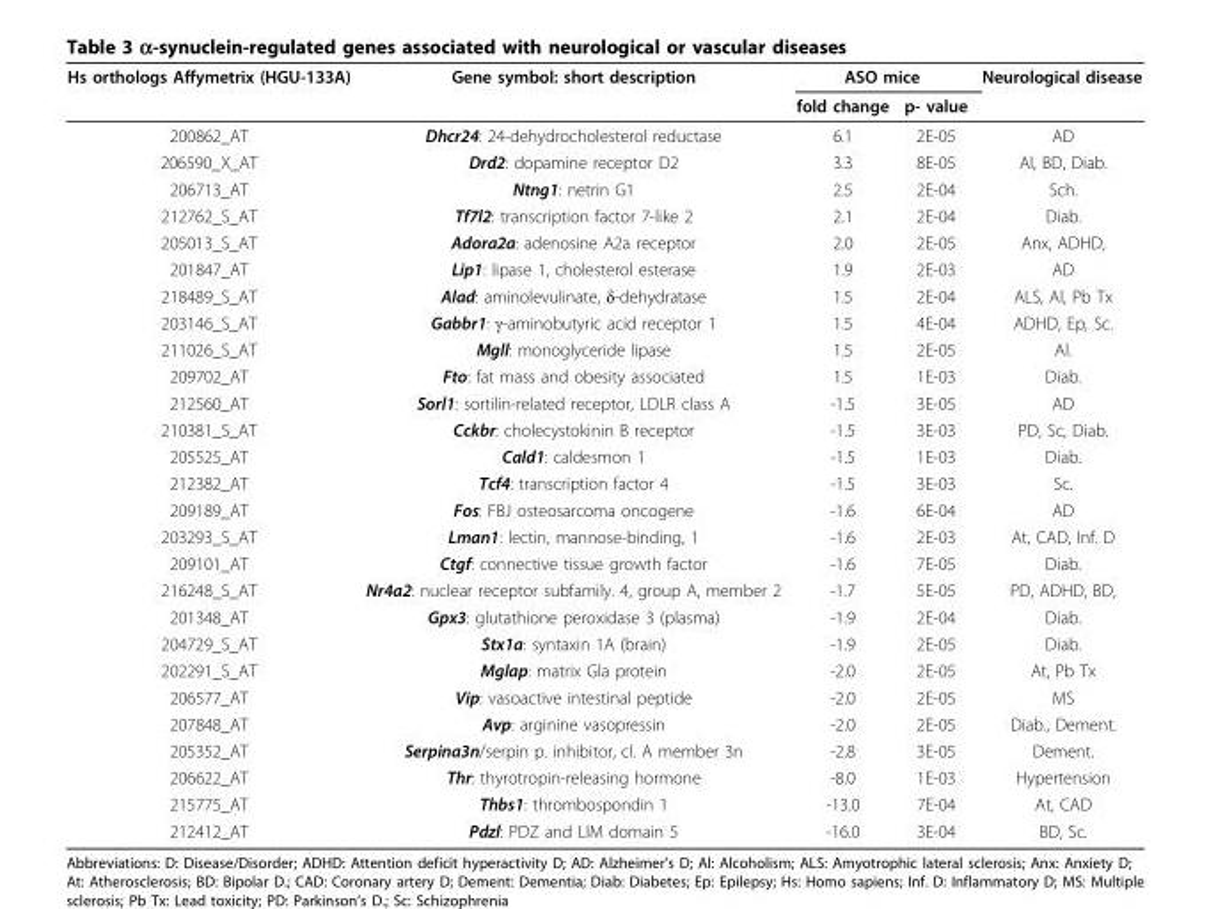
<table><thead><tr><td rowspan="2">Hs orthologs Affymetrix (HGU-133A)</td><td rowspan="2">Gene symbol: short description</td><td colspan="2">ASO mice</td><td rowspan="2">Neurological disease</td></tr><tr><td>fold change</td><td>p- value</td></tr></thead><tbody><tr><td>200862_AT</td><td>Dhcr24: 24-dehydrocholesterol reductase</td><td>6.1</td><td>2E-05</td><td>AD</td></tr><tr><td>206590_X_AT</td><td>Drd2: dopamine receptor D2</td><td>3.3</td><td>8E-05</td><td>Al, BD, Diab.</td></tr><tr><td>206713_AT</td><td>Ntng1: netrin G1</td><td>2.5</td><td>2E-04</td><td>Sch.</td></tr><tr><td>212762_S_AT</td><td>Tf7l2: transcription factor 7-like 2</td><td>2.1</td><td>2E-04</td><td>Diab.</td></tr><tr><td>205013_S_AT</td><td>Adora2a: adenosine A2a receptor</td><td>2.0</td><td>2E-05</td><td>Anx, ADHD,</td></tr><tr><td>201847_AT</td><td>Lip1: lipase 1, cholesterol esterase</td><td>1.9</td><td>2E-03</td><td>AD</td></tr><tr><td>218489_S_AT</td><td>Alad: aminolevulinate, δ-dehydratase</td><td>1.5</td><td>2E-04</td><td>ALS, Al, Pb Tx</td></tr><tr><td>203146_S_AT</td><td>Gabbr1: γ-aminobutyric acid receptor 1</td><td>1.5</td><td>4E-04</td><td>ADHD, Ep, Sc.</td></tr><tr><td>211026_S_AT</td><td>Mgll: monoglyceride lipase</td><td>1.5</td><td>2E-05</td><td>Al.</td></tr><tr><td>209702_AT</td><td>Fto: fat mass and obesity associated</td><td>1.5</td><td>1E-03</td><td>Diab.</td></tr><tr><td>212560_AT</td><td>Sorl1: sortilin-related receptor, LDLR class A</td><td>-1.5</td><td>3E-05</td><td>AD</td></tr><tr><td>210381_S_AT</td><td>Cckbr: cholecystokinin B receptor</td><td>-1.5</td><td>3E-03</td><td>PD, Sc, Diab.</td></tr><tr><td>205525_AT</td><td>Cald1: caldesmon 1</td><td>-1.5</td><td>1E-03</td><td>Diab.</td></tr><tr><td>212382_AT</td><td>Tcf4: transcription factor 4</td><td>-1.5</td><td>3E-03</td><td>Sc.</td></tr><tr><td>209189_AT</td><td>Fos: FBJ osteosarcoma oncogene</td><td>-1.6</td><td>6E-04</td><td>AD</td></tr><tr><td>203293_S_AT</td><td>Lman1: lectin, mannose-binding, 1</td><td>-1.6</td><td>2E-03</td><td>At, CAD, Inf. D</td></tr><tr><td>209101_AT</td><td>Ctgf: connective tissue growth factor</td><td>-1.6</td><td>7E-05</td><td>Diab.</td></tr><tr><td>216248_S_AT</td><td>Nr4a2: nuclear receptor subfamily. 4, group A, member 2</td><td>-1.7</td><td>5E-05</td><td>PD, ADHD, BD,</td></tr><tr><td>201348_AT</td><td>Gpx3: glutathione peroxidase 3 (plasma)</td><td>-1.9</td><td>2E-04</td><td>Diab.</td></tr><tr><td>204729_S_AT</td><td>Stx1a: syntaxin 1A (brain)</td><td>-1.9</td><td>2E-05</td><td>Diab.</td></tr><tr><td>202291_S_AT</td><td>Mglap: matrix Gla protein</td><td>-2.0</td><td>2E-05</td><td>At, Pb Tx</td></tr><tr><td>206577_AT</td><td>Vip: vasoactive intestinal peptide</td><td>-2.0</td><td>2E-05</td><td>MS</td></tr><tr><td>207848_AT</td><td>Avp: arginine vasopressin</td><td>-2.0</td><td>2E-05</td><td>Diab., Dement.</td></tr><tr><td>205352_AT</td><td>Serpina3n/serpin p. inhibitor, cl. A member 3n</td><td>-2.8</td><td>3E-05</td><td>Dement.</td></tr><tr><td>206622_AT</td><td>Thr: thyrotropin-releasing hormone</td><td>-8.0</td><td>1E-03</td><td>Hypertension</td></tr><tr><td>215775_AT</td><td>Thbs1: thrombospondin 1</td><td>-13.0</td><td>7E-04</td><td>At, CAD</td></tr><tr><td>212412_AT</td><td>Pdzl: PDZ and LIM domain 5</td><td>-16.0</td><td>3E-04</td><td>BD, Sc.</td></tr></tbody></table>